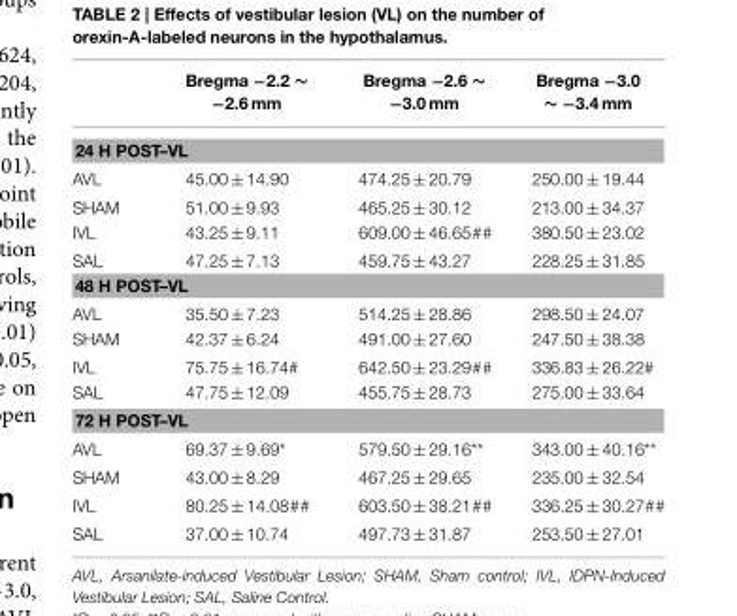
<table><thead><tr><td></td><td>Bregma −2.2 ∼ −2.6 mm</td><td>Bregma −2.6 ∼ −3.0 mm</td><td>Bregma −3.0 ∼ −3.4 mm</td></tr></thead><tbody><tr><td colspan="4">24 H POST–VL</td></tr><tr><td>AVL</td><td>45.00 ± 14.90</td><td>474.25 ± 20.79</td><td>250.00 ± 19.44</td></tr><tr><td>SHAM</td><td>51.00 ± 9.93</td><td>465.25 ± 30.12</td><td>213.00 ± 34.37</td></tr><tr><td>IVL</td><td>43.25 ± 9.11</td><td>609.00 ± 46.65##</td><td>380.50 ± 23.02</td></tr><tr><td>SAL</td><td>47.25 ± 7.13</td><td>459.75 ± 43.27</td><td>228.25 ± 31.85</td></tr><tr><td colspan="4">48 H POST–VL</td></tr><tr><td>AVL</td><td>35.50 ± 7.23</td><td>514.25 ± 28.86</td><td>298.50 ± 24.07</td></tr><tr><td>SHAM</td><td>42.37 ± 6.24</td><td>491.00 ± 27.60</td><td>247.50 ± 38.38</td></tr><tr><td>IVL</td><td>75.75 ± 16.74#</td><td>642.50 ± 23.29##</td><td>336.83 ± 26.22#</td></tr><tr><td>SAL</td><td>47.75 ± 12.09</td><td>455.75 ± 28.73</td><td>275.00 ± 33.64</td></tr><tr><td colspan="4">72 H POST–VL</td></tr><tr><td>AVL</td><td>69.37 ± 9.69*</td><td>579.50 ± 29.16**</td><td>343.00 ± 40.16**</td></tr><tr><td>SHAM</td><td>43.00 ± 8.29</td><td>467.25 ± 29.65</td><td>235.00 ± 32.54</td></tr><tr><td>IVL</td><td>80.25 ± 14.08##</td><td>603.50 ± 38.21##</td><td>336.25 ± 30.27##</td></tr><tr><td>SAL</td><td>37.00 ± 10.74</td><td>497.73 ± 31.87</td><td>253.50 ± 27.01</td></tr></tbody></table>